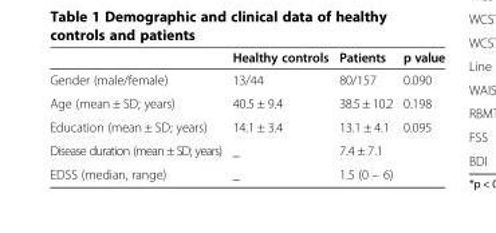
<table><thead><tr><td></td><td>Healthy controls</td><td>Patients</td><td>p value</td></tr></thead><tbody><tr><td>Gender (male/female)</td><td>13/44</td><td>80/157</td><td>0.090</td></tr><tr><td>Age (mean ± SD; years)</td><td>40.5 ± 9.4</td><td>38.5 ± 10.2</td><td>0.198</td></tr><tr><td>Education (mean ± SD; years)</td><td>14.1 ± 3.4</td><td>13.1 ± 4.1</td><td>0.095</td></tr><tr><td>Disease duration (mean± SD; years)</td><td>_</td><td>7.4 ± 7.1</td><td></td></tr><tr><td>EDSS (median, range)</td><td>_</td><td>1.5 (0 – 6)</td><td></td></tr></tbody></table>